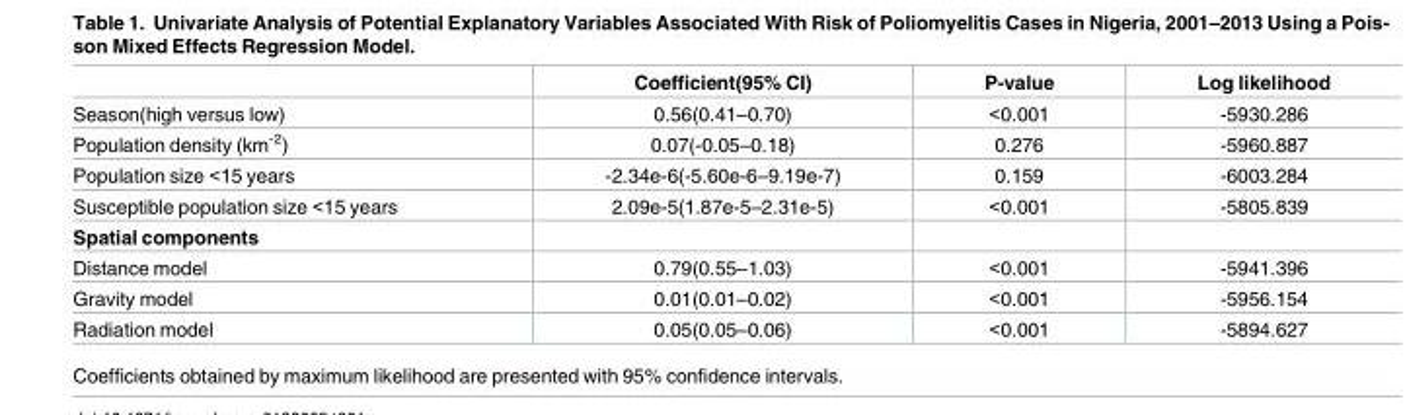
<table><thead><tr><td></td><td>Coefficient(95% CI)</td><td>P-value</td><td>Log likelihood</td></tr></thead><tbody><tr><td>Season(high versus low)</td><td>0.56(0.41–0.70)</td><td>&lt;0.001</td><td>-5930.286</td></tr><tr><td>Population density (km<sup>-2</sup>)</td><td>0.07(-0.05–0.18)</td><td>0.276</td><td>-5960.887</td></tr><tr><td>Population size &lt;15 years</td><td>-2.34e-6(-5.60e-6–9.19e-7)</td><td>0.159</td><td>-6003.284</td></tr><tr><td>Susceptible population size &lt;15 years</td><td>2.09e-5(1.87e-5–2.31e-5)</td><td>&lt;0.001</td><td>-5805.839</td></tr><tr><td colspan="4">Spatial components</td></tr><tr><td>Distance model</td><td>0.79(0.55–1.03)</td><td>&lt;0.001</td><td>-5941.396</td></tr><tr><td>Gravity model</td><td>0.01(0.01–0.02)</td><td>&lt;0.001</td><td>-5956.154</td></tr><tr><td>Radiation model</td><td>0.05(0.05–0.06)</td><td>&lt;0.001</td><td>-5894.627</td></tr></tbody></table>